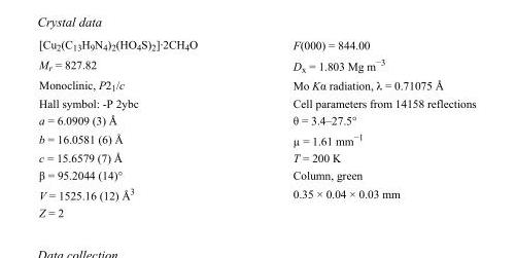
<table><tbody><tr><td>[Cu<sub>2</sub>(C<sub>13</sub>H<sub>9</sub>N<sub>4</sub>)<sub>2</sub>(HO<sub>4</sub>S)<sub>2</sub>]·2CH<sub>4</sub>O</td><td>F(000) = 844.00</td></tr><tr><td>M<sub>r</sub> = 827.82</td><td>D<sub>x</sub> = 1.803 Mg m<sup>−3</sup></td></tr><tr><td>Monoclinic, P2<sub>1</sub>/c</td><td>Mo Kα radiation, λ = 0.71075 Å</td></tr><tr><td>Hall symbol: -P 2ybc</td><td>Cell parameters from 14158 reflections</td></tr><tr><td>a = 6.0909 (3) Å</td><td>θ = 3.4–27.5°</td></tr><tr><td>b = 16.0581 (6) Å</td><td>µ = 1.61 mm<sup>−1</sup></td></tr><tr><td>c = 15.6579 (7) Å</td><td>T = 200 K</td></tr><tr><td>β = 95.2044 (14)°</td><td>Column, green</td></tr><tr><td>V = 1525.16 (12) Å<sup>3</sup></td><td>0.35 × 0.04 × 0.03 mm</td></tr><tr><td>Z = 2</td><td></td></tr></tbody></table>